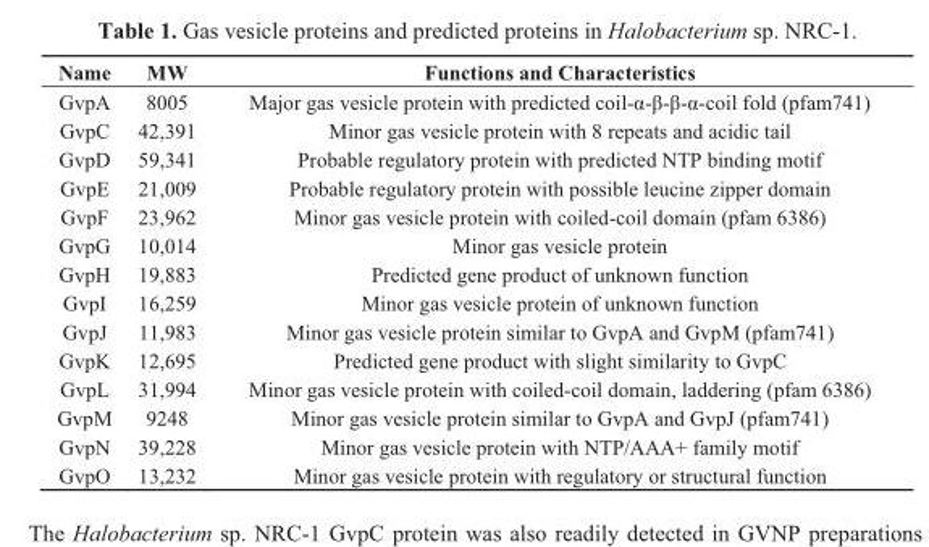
<table><thead><tr><td>Name</td><td>MW</td><td>Functions and Characteristics</td></tr></thead><tbody><tr><td>GvpA</td><td>8005</td><td>Major gas vesicle protein with predicted coil-α-β-β-α-coil fold (pfam741)</td></tr><tr><td>GvpC</td><td>42,391</td><td>Minor gas vesicle protein with 8 repeats and acidic tail</td></tr><tr><td>GvpD</td><td>59,341</td><td>Probable regulatory protein with predicted NTP binding motif</td></tr><tr><td>GvpE</td><td>21,009</td><td>Probable regulatory protein with possible leucine zipper domain</td></tr><tr><td>GvpF</td><td>23,962</td><td>Minor gas vesicle protein with coiled-coil domain (pfam 6386)</td></tr><tr><td>GvpG</td><td>10,014</td><td>Minor gas vesicle protein</td></tr><tr><td>GvpH</td><td>19,883</td><td>Predicted gene product of unknown function</td></tr><tr><td>GvpI</td><td>16,259</td><td>Minor gas vesicle protein of unknown function</td></tr><tr><td>GvpJ</td><td>11,983</td><td>Minor gas vesicle protein similar to GvpA and GvpM (pfam741)</td></tr><tr><td>GvpK</td><td>12,695</td><td>Predicted gene product with slight similarity to GvpC</td></tr><tr><td>GvpL</td><td>31,994</td><td>Minor gas vesicle protein with coiled-coil domain, laddering (pfam 6386)</td></tr><tr><td>GvpM</td><td>9248</td><td>Minor gas vesicle protein similar to GvpA and GvpJ (pfam741)</td></tr><tr><td>GvpN</td><td>39,228</td><td>Minor gas vesicle protein with NTP/AAA+ family motif</td></tr><tr><td>GvpO</td><td>13,232</td><td>Minor gas vesicle protein with regulatory or structural function</td></tr></tbody></table>